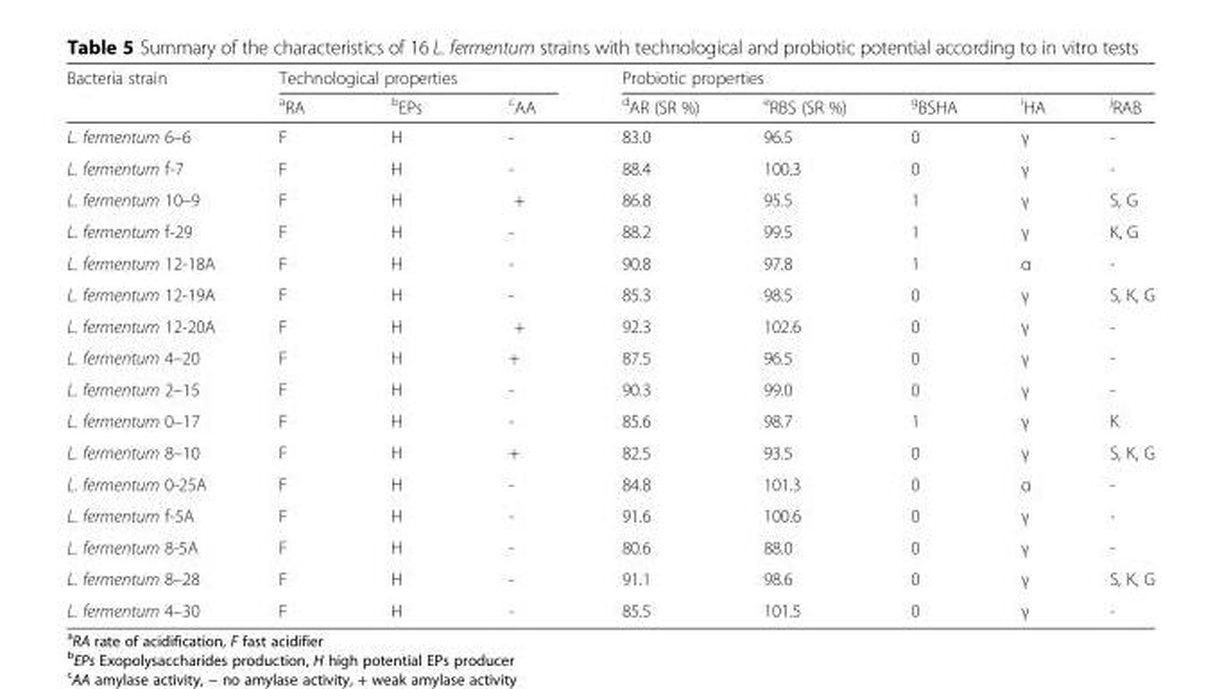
<table><thead><tr><td rowspan="2">Bacteria strain</td><td colspan="3">Technological properties</td><td colspan="5">Probiotic properties</td></tr><tr><td><sup>a</sup>RA</td><td><sup>b</sup>EPs</td><td><sup>c</sup>AA</td><td><sup>d</sup>AR (SR %)</td><td><sup>e</sup>RBS (SR %)</td><td><sup>g</sup>BSHA</td><td><sup>i</sup>HA</td><td><sup>j</sup>RAB</td></tr></thead><tbody><tr><td>L. fermentum 6–6</td><td>F</td><td>H</td><td>-</td><td>83.0</td><td>96.5</td><td>0</td><td>γ</td><td>-</td></tr><tr><td>L. fermentum f-7</td><td>F</td><td>H</td><td>-</td><td>88.4</td><td>100.3</td><td>0</td><td>γ</td><td>-</td></tr><tr><td>L. fermentum 10–9</td><td>F</td><td>H</td><td>+</td><td>86.8</td><td>95.5</td><td>1</td><td>γ</td><td>S, G</td></tr><tr><td>L. fermentum f-29</td><td>F</td><td>H</td><td>-</td><td>88.2</td><td>99.5</td><td>1</td><td>γ</td><td>K, G</td></tr><tr><td>L. fermentum 12-18A</td><td>F</td><td>H</td><td>-</td><td>90.8</td><td>97.8</td><td>1</td><td>α</td><td>-</td></tr><tr><td>L. fermentum 12-19A</td><td>F</td><td>H</td><td>-</td><td>85.3</td><td>98.5</td><td>0</td><td>γ</td><td>S, K, G</td></tr><tr><td>L. fermentum 12-20A</td><td>F</td><td>H</td><td>+</td><td>92.3</td><td>102.6</td><td>0</td><td>γ</td><td>-</td></tr><tr><td>L. fermentum 4–20</td><td>F</td><td>H</td><td>+</td><td>87.5</td><td>96.5</td><td>0</td><td>γ</td><td>-</td></tr><tr><td>L. fermentum 2–15</td><td>F</td><td>H</td><td>-</td><td>90.3</td><td>99.0</td><td>0</td><td>γ</td><td>-</td></tr><tr><td>L. fermentum 0–17</td><td>F</td><td>H</td><td>-</td><td>85.6</td><td>98.7</td><td>1</td><td>γ</td><td>K</td></tr><tr><td>L. fermentum 8–10</td><td>F</td><td>H</td><td>+</td><td>82.5</td><td>93.5</td><td>0</td><td>γ</td><td>S, K, G</td></tr><tr><td>L. fermentum 0-25A</td><td>F</td><td>H</td><td>-</td><td>84.8</td><td>101.3</td><td>0</td><td>α</td><td>-</td></tr><tr><td>L. fermentum f-5A</td><td>F</td><td>H</td><td>-</td><td>91.6</td><td>100.6</td><td>0</td><td>γ</td><td>-</td></tr><tr><td>L. fermentum 8-5A</td><td>F</td><td>H</td><td>-</td><td>80.6</td><td>88.0</td><td>0</td><td>γ</td><td>-</td></tr><tr><td>L. fermentum 8–28</td><td>F</td><td>H</td><td>-</td><td>91.1</td><td>98.6</td><td>0</td><td>γ</td><td>S, K, G</td></tr><tr><td>L. fermentum 4–30</td><td>F</td><td>H</td><td>-</td><td>85.5</td><td>101.5</td><td>0</td><td>γ</td><td>-</td></tr></tbody></table>